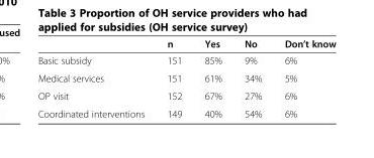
<table><thead><tr><td></td><td>n</td><td>Yes</td><td>No</td><td>Don’t know</td></tr></thead><tbody><tr><td>Basic subsidy</td><td>151</td><td>85%</td><td>9%</td><td>6%</td></tr><tr><td>Medical services</td><td>151</td><td>61%</td><td>34%</td><td>5%</td></tr><tr><td>OP visit</td><td>152</td><td>67%</td><td>27%</td><td>6%</td></tr><tr><td>Coordinated interventions</td><td>149</td><td>40%</td><td>54%</td><td>6%</td></tr></tbody></table>